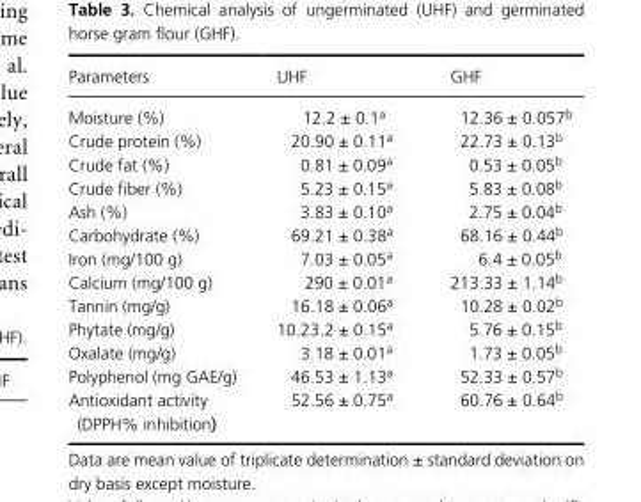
<table><thead><tr><td>Parameters</td><td>UHF</td><td>GHF</td></tr></thead><tbody><tr><td>Moisture (%)</td><td>12.2 ± 0.1<sup>a</sup></td><td>12.36 ± 0.057<sup>b</sup></td></tr><tr><td>Crude protein (%)</td><td>20.90 ± 0.11<sup>a</sup></td><td>22.73 ± 0.13<sup>b</sup></td></tr><tr><td>Crude fat (%)</td><td>0.81 ± 0.09<sup>a</sup></td><td>0.53 ± 0.05<sup>b</sup></td></tr><tr><td>Crude fiber (%)</td><td>5.23 ± 0.15<sup>a</sup></td><td>5.83 ± 0.08<sup>b</sup></td></tr><tr><td>Ash (%)</td><td>3.83 ± 0.10<sup>a</sup></td><td>2.75 ± 0.04<sup>b</sup></td></tr><tr><td>Carbohydrate (%)</td><td>69.21 ± 0.38<sup>a</sup></td><td>68.16 ± 0.44<sup>b</sup></td></tr><tr><td>Iron (mg/100 g)</td><td>7.03 ± 0.05<sup>a</sup></td><td>6.4 ± 0.05<sup>b</sup></td></tr><tr><td>Calcium (mg/100 g)</td><td>290 ± 0.01<sup>a</sup></td><td>213.33 ± 1.14<sup>b</sup></td></tr><tr><td>Tannin (mg/g)</td><td>16.18 ± 0.06<sup>a</sup></td><td>10.28 ± 0.02<sup>b</sup></td></tr><tr><td>Phytate (mg/g)</td><td>10.23.2 ± 0.15<sup>a</sup></td><td>5.76 ± 0.15<sup>b</sup></td></tr><tr><td>Oxalate (mg/g)</td><td>3.18 ± 0.01<sup>a</sup></td><td>1.73 ± 0.05<sup>b</sup></td></tr><tr><td>Polyphenol (mg GAE/g)</td><td>46.53 ± 1.13<sup>a</sup></td><td>52.33 ± 0.57<sup>b</sup></td></tr><tr><td>Antioxidant activity (DPPH% inhibition)</td><td>52.56 ± 0.75<sup>a</sup></td><td>60.76 ± 0.64<sup>b</sup></td></tr></tbody></table>